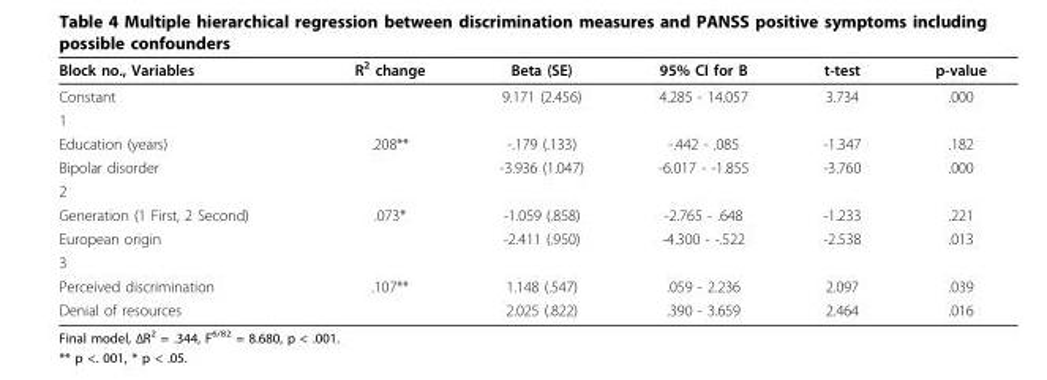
<table><thead><tr><td>Block no., Variables</td><td>R<sup>2</sup> change</td><td>Beta (SE)</td><td>95% CI for B</td><td>t-test</td><td>p-value</td></tr></thead><tbody><tr><td>Constant</td><td></td><td>9.171 (2.456)</td><td>4.285 - 14.057</td><td>3.734</td><td>.000</td></tr><tr><td colspan="6">1</td></tr><tr><td>Education (years)</td><td>.208**</td><td>-.179 (.133)</td><td>-.442 - .085</td><td>-1.347</td><td>.182</td></tr><tr><td>Bipolar disorder</td><td></td><td>-3.936 (1.047)</td><td>-6.017 - -1.855</td><td>-3.760</td><td>.000</td></tr><tr><td colspan="6">2</td></tr><tr><td>Generation (1 First, 2 Second)</td><td>.073*</td><td>-1.059 (.858)</td><td>-2.765 - .648</td><td>-1.233</td><td>.221</td></tr><tr><td>European origin</td><td></td><td>-2.411 (.950)</td><td>-4.300 - -.522</td><td>-2.538</td><td>.013</td></tr><tr><td colspan="6">3</td></tr><tr><td>Perceived discrimination</td><td>.107**</td><td>1.148 (.547)</td><td>.059 - 2.236</td><td>2.097</td><td>.039</td></tr><tr><td>Denial of resources</td><td></td><td>2.025 (.822)</td><td>.390 - 3.659</td><td>2.464</td><td>.016</td></tr></tbody></table>